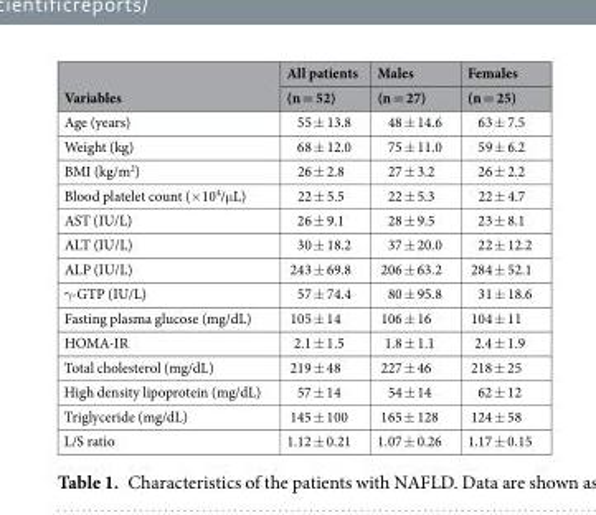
<table><thead><tr><td rowspan="2">Variables</td><td rowspan="2">All patients (n = 52)</td><td rowspan="2">Males (n = 27)</td><td rowspan="2">Females (n = 25)</td></tr><tr></tr></thead><tbody><tr><td>Age (years)</td><td>55 ± 13.8</td><td>48 ± 14.6</td><td>63 ± 7.5</td></tr><tr><td>Weight (kg)</td><td>68 ± 12.0</td><td>75 ± 11.0</td><td>59 ± 6.2</td></tr><tr><td>BMI (kg/m<sup>2</sup>)</td><td>26 ± 2.8</td><td>27 ± 3.2</td><td>26 ± 2.2</td></tr><tr><td>Blood platelet count (×10<sup>4</sup>/μL)</td><td>22 ± 5.5</td><td>22 ± 5.3</td><td>22 ± 4.7</td></tr><tr><td>AST (IU/L)</td><td>26 ± 9.1</td><td>28 ± 9.5</td><td>23 ± 8.1</td></tr><tr><td>ALT (IU/L)</td><td>30 ± 18.2</td><td>37 ± 20.0</td><td>22 ± 12.2</td></tr><tr><td>ALP (IU/L)</td><td>243 ± 69.8</td><td>206 ± 63.2</td><td>284 ± 52.1</td></tr><tr><td>γ-GTP (IU/L)</td><td>57 ± 74.4</td><td>80 ± 95.8</td><td>31 ± 18.6</td></tr><tr><td>Fasting plasma glucose (mg/dL)</td><td>105 ± 14</td><td>106 ± 16</td><td>104 ± 11</td></tr><tr><td>HOMA-IR</td><td>2.1 ± 1.5</td><td>1.8 ± 1.1</td><td>2.4 ± 1.9</td></tr><tr><td>Total cholesterol (mg/dL)</td><td>219 ± 48</td><td>227 ± 46</td><td>218 ± 25</td></tr><tr><td>High density lipoprotein (mg/dL)</td><td>57 ± 14</td><td>54 ± 14</td><td>62 ± 12</td></tr><tr><td>Triglyceride (mg/dL)</td><td>145 ± 100</td><td>165 ± 128</td><td>124 ± 58</td></tr><tr><td>L/S ratio</td><td>1.12 ± 0.21</td><td>1.07 ± 0.26</td><td>1.17 ± 0.15</td></tr></tbody></table>